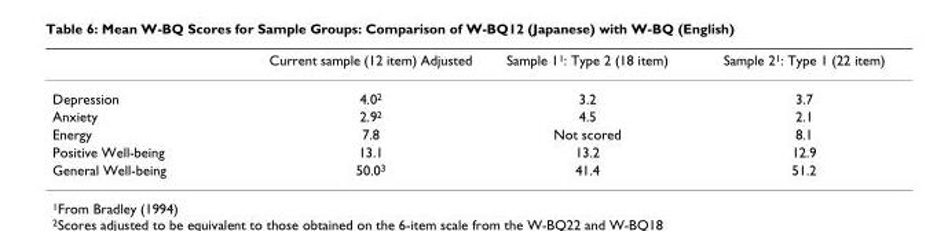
<table><thead><tr><td></td><td>Current sample (12 item) Adjusted</td><td>Sample 1<sup>1</sup>: Type 2 (18 item)</td><td>Sample 2<sup>1</sup>: Type 1 (22 item)</td></tr></thead><tbody><tr><td>Depression</td><td>4.0<sup>2</sup></td><td>3.2</td><td>3.7</td></tr><tr><td>Anxiety</td><td>2.9<sup>2</sup></td><td>4.5</td><td>2.1</td></tr><tr><td>Energy</td><td>7.8</td><td>Not scored</td><td>8.1</td></tr><tr><td>Positive Well-being</td><td>13.1</td><td>13.2</td><td>12.9</td></tr><tr><td>General Well-being</td><td>50.0<sup>3</sup></td><td>41.4</td><td>51.2</td></tr></tbody></table>